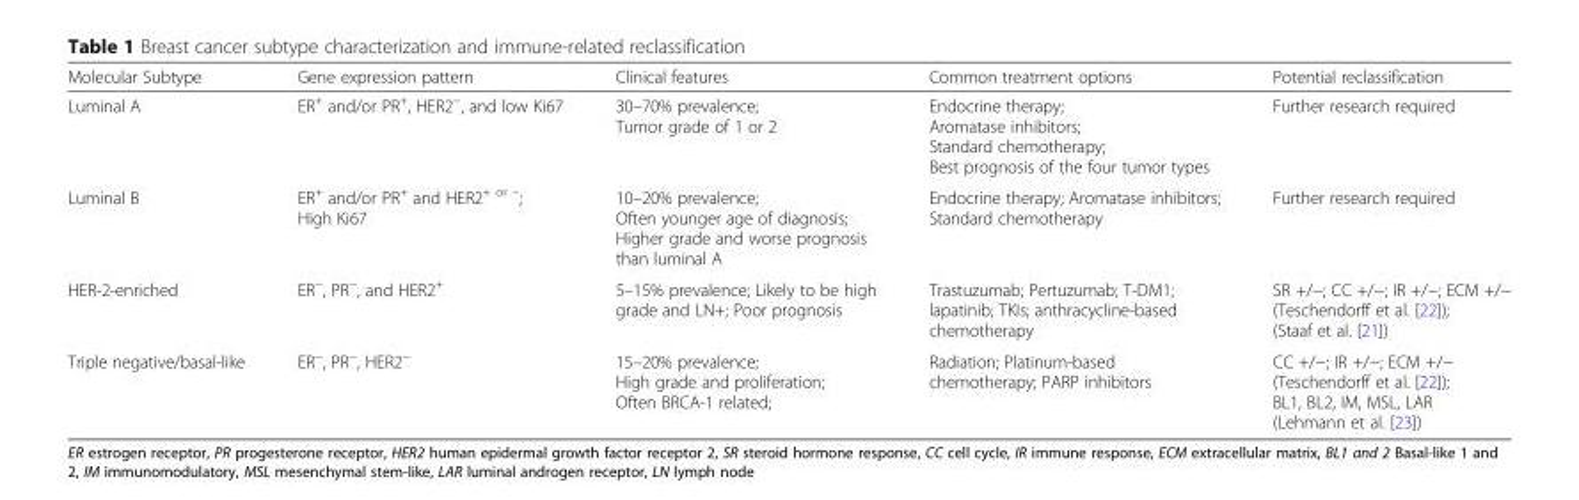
<table><thead><tr><td>Molecular Subtype</td><td>Gene expression pattern</td><td>Clinical features</td><td>Common treatment options</td><td>Potential reclassification</td></tr></thead><tbody><tr><td>Luminal A</td><td>ER<sup>+</sup> and/or PR<sup>+</sup>, HER2<sup>−</sup>, and low Ki67</td><td>30–70% prevalence; Tumor grade of 1 or 2</td><td>Endocrine therapy; Aromatase inhibitors; Standard chemotherapy; Best prognosis of the four tumor types</td><td>Further research required</td></tr><tr><td>Luminal B</td><td>ER<sup>+</sup> and/or PR<sup>+</sup> and HER2<sup>+ or –</sup>; High Ki67</td><td>10–20% prevalence; Often younger age of diagnosis; Higher grade and worse prognosis than luminal A</td><td>Endocrine therapy; Aromatase inhibitors; Standard chemotherapy</td><td>Further research required</td></tr><tr><td>HER-2-enriched</td><td>ER<sup>−</sup>, PR<sup>−</sup>, and HER2<sup>+</sup></td><td>5–15% prevalence; Likely to be high grade and LN+; Poor prognosis</td><td>Trastuzumab; Pertuzumab; T-DM1; lapatinib; TKIs; anthracycline-based chemotherapy</td><td>SR +/−; CC +/−; IR +/−; ECM +/− (Teschendorff et al. [22]); (Staaf et al. [21])</td></tr><tr><td>Triple negative/basal-like</td><td>ER<sup>−</sup>, PR<sup>−</sup>, HER2<sup>−</sup></td><td>15–20% prevalence; High grade and proliferation; Often BRCA-1 related;</td><td>Radiation; Platinum-based chemotherapy; PARP inhibitors</td><td>CC +/−; IR +/−; ECM +/− (Teschendorff et al. [22]); BL1, BL2, IM, MSL, LAR (Lehmann et al. [23])</td></tr></tbody></table>